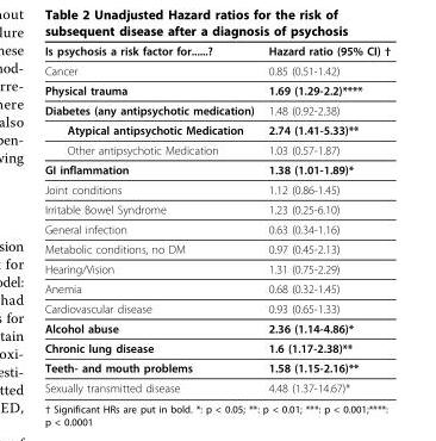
<table><thead><tr><td>Is psychosis a risk factor for......?</td><td>Hazard ratio (95% CI) †</td></tr></thead><tbody><tr><td>Cancer</td><td>0.85 (0.51-1.42)</td></tr><tr><td>Physical trauma</td><td>1.69 (1.29-2.2)****</td></tr><tr><td>Diabetes (any antipsychotic medication)</td><td>1.48 (0.92-2.38)</td></tr><tr><td>Atypical antipsychotic Medication</td><td>2.74 (1.41-5.33)**</td></tr><tr><td>Other antipsychotic Medication</td><td>1.03 (0.57-1.87)</td></tr><tr><td>GI inflammation</td><td>1.38 (1.01-1.89)*</td></tr><tr><td>Joint conditions</td><td>1.12 (0.86-1.45)</td></tr><tr><td>Irritable Bowel Syndrome</td><td>1.23 (0.25-6.10)</td></tr><tr><td>General infection</td><td>0.63 (0.34-1.16)</td></tr><tr><td>Metabolic conditions, no DM</td><td>0.97 (0.45-2.13)</td></tr><tr><td>Hearing/Vision</td><td>1.31 (0.75-2.29)</td></tr><tr><td>Anemia</td><td>0.68 (0.32-1.45)</td></tr><tr><td>Cardiovascular disease</td><td>0.93 (0.65-1.33)</td></tr><tr><td>Alcohol abuse</td><td>2.36 (1.14-4.86)*</td></tr><tr><td>Chronic lung disease</td><td>1.6 (1.17-2.38)**</td></tr><tr><td>Teeth- and mouth problems</td><td>1.58 (1.15-2.16)**</td></tr><tr><td>Sexually transmitted disease</td><td>4.48 (1.37-14.67)*</td></tr></tbody></table>